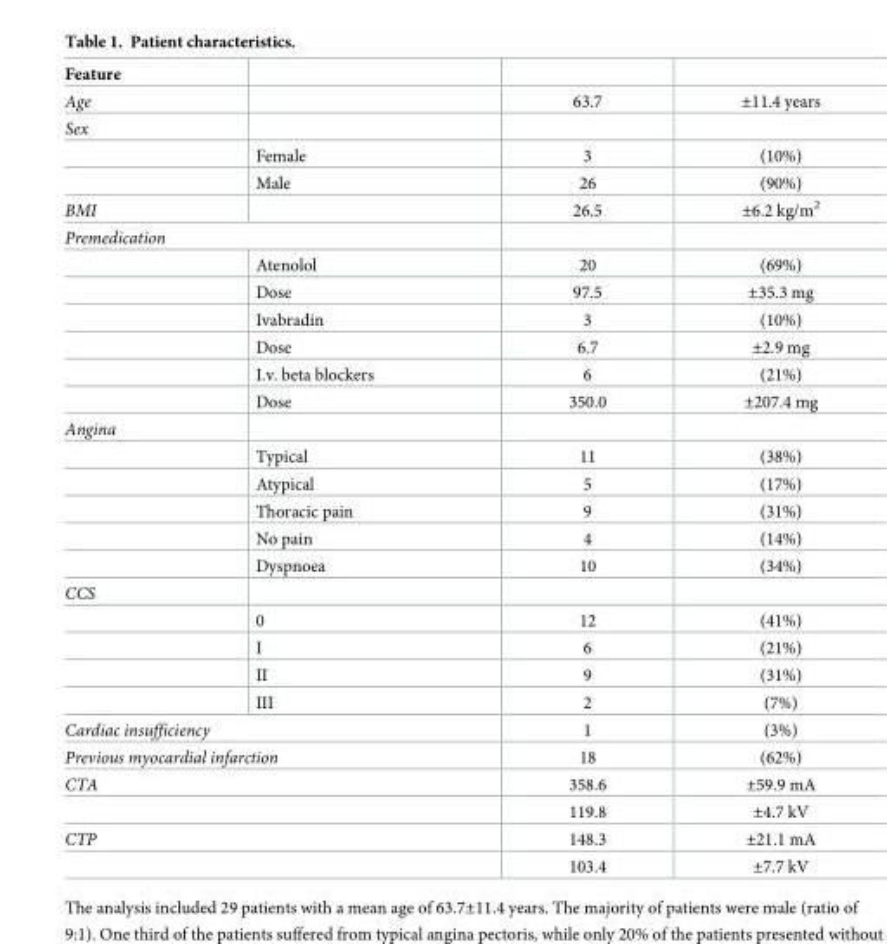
<table><thead><tr><td>Feature</td><td></td><td></td><td></td></tr></thead><tbody><tr><td>Age</td><td></td><td>63.7</td><td>±11.4 years</td></tr><tr><td colspan="4">Sex</td></tr><tr><td></td><td>Female</td><td>3</td><td>(10%)</td></tr><tr><td></td><td>Male</td><td>26</td><td>(90%)</td></tr><tr><td>BMI</td><td></td><td>26.5</td><td>±6.2 kg/m<sup>2</sup></td></tr><tr><td colspan="4">Premedication</td></tr><tr><td></td><td>Atenolol</td><td>20</td><td>(69%)</td></tr><tr><td></td><td>Dose</td><td>97.5</td><td>±35.3 mg</td></tr><tr><td></td><td>Ivabradin</td><td>3</td><td>(10%)</td></tr><tr><td></td><td>Dose</td><td>6.7</td><td>±2.9 mg</td></tr><tr><td></td><td>I.v. beta blockers</td><td>6</td><td>(21%)</td></tr><tr><td></td><td>Dose</td><td>350.0</td><td>±207.4 mg</td></tr><tr><td colspan="4">Angina</td></tr><tr><td></td><td>Typical</td><td>11</td><td>(38%)</td></tr><tr><td></td><td>Atypical</td><td>5</td><td>(17%)</td></tr><tr><td></td><td>Thoracic pain</td><td>9</td><td>(31%)</td></tr><tr><td></td><td>No pain</td><td>4</td><td>(14%)</td></tr><tr><td></td><td>Dyspnoea</td><td>10</td><td>(34%)</td></tr><tr><td colspan="4">CCS</td></tr><tr><td></td><td>0</td><td>12</td><td>(41%)</td></tr><tr><td></td><td>I</td><td>6</td><td>(21%)</td></tr><tr><td></td><td>II</td><td>9</td><td>(31%)</td></tr><tr><td></td><td>III</td><td>2</td><td>(7%)</td></tr><tr><td colspan="2">Cardiac insufficiency</td><td>1</td><td>(3%)</td></tr><tr><td colspan="2">Previous myocardial infarction</td><td>18</td><td>(62%)</td></tr><tr><td rowspan="2" colspan="2">CTA</td><td>358.6</td><td>±59.9 mA</td></tr><tr><td>119.8</td><td>±4.7 kV</td></tr><tr><td rowspan="2" colspan="2">CTP</td><td>148.3</td><td>±21.1 mA</td></tr><tr><td>103.4</td><td>±7.7 kV</td></tr></tbody></table>